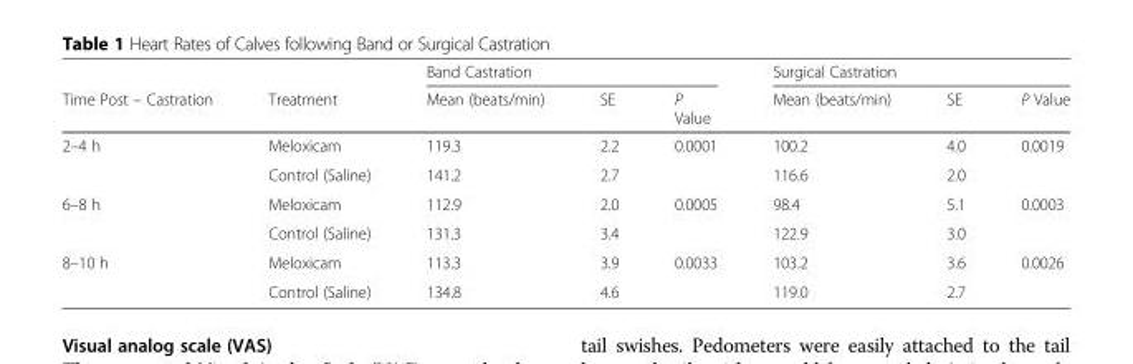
<table><thead><tr><td rowspan="2">Time Post – Castration</td><td rowspan="2">Treatment</td><td colspan="3">Band Castration</td><td colspan="3">Surgical Castration</td></tr><tr><td>Mean (beats/min)</td><td>SE</td><td>P Value</td><td>Mean (beats/min)</td><td>SE</td><td>P Value</td></tr></thead><tbody><tr><td rowspan="2">2–4 h</td><td>Meloxicam</td><td>119.3</td><td>2.2</td><td rowspan="2">0.0001</td><td>100.2</td><td>4.0</td><td rowspan="2">0.0019</td></tr><tr><td>Control (Saline)</td><td>141.2</td><td>2.7</td><td>116.6</td><td>2.0</td></tr><tr><td rowspan="2">6–8 h</td><td>Meloxicam</td><td>112.9</td><td>2.0</td><td rowspan="2">0.0005</td><td>98.4</td><td>5.1</td><td rowspan="2">0.0003</td></tr><tr><td>Control (Saline)</td><td>131.3</td><td>3.4</td><td>122.9</td><td>3.0</td></tr><tr><td rowspan="2">8–10 h</td><td>Meloxicam</td><td>113.3</td><td>3.9</td><td rowspan="2">0.0033</td><td>103.2</td><td>3.6</td><td rowspan="2">0.0026</td></tr><tr><td>Control (Saline)</td><td>134.8</td><td>4.6</td><td>119.0</td><td>2.7</td></tr></tbody></table>